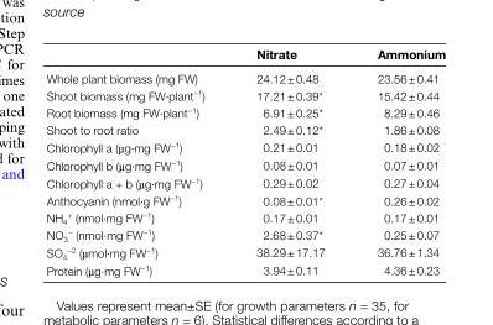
<table><thead><tr><td></td><td>Nitrate</td><td>Ammonium</td></tr></thead><tbody><tr><td>Whole plant biomass (mg FW)</td><td>24.12 ± 0.48</td><td>23.56 ± 0.41</td></tr><tr><td>Shoot biomass (mg FW·plant<sup>−1</sup>)</td><td>17.21 ± 0.39*</td><td>15.42 ± 0.44</td></tr><tr><td>Root biomass (mg FW·plant<sup>−1</sup>)</td><td>6.91 ± 0.25*</td><td>8.29 ± 0.46</td></tr><tr><td>Shoot to root ratio</td><td>2.49 ± 0.12*</td><td>1.86 ± 0.08</td></tr><tr><td>Chlorophyll a (µg·mg FW<sup>−1</sup>)</td><td>0.21 ± 0.01</td><td>0.18 ± 0.02</td></tr><tr><td>Chlorophyll b (µg·mg FW<sup>−1</sup>)</td><td>0.08 ± 0.01</td><td>0.07 ± 0.01</td></tr><tr><td>Chlorophyll a + b (µg·mg FW<sup>−1</sup>)</td><td>0.29 ± 0.02</td><td>0.27 ± 0.04</td></tr><tr><td>Anthocyanin (nmol·g FW<sup>−1</sup>)</td><td>0.08 ± 0.01*</td><td>0.26 ± 0.02</td></tr><tr><td>NH<sub>4</sub> <sup>+</sup> (nmol·mg FW<sup>−1</sup>)</td><td>0.17 ± 0.01</td><td>0.17 ± 0.01</td></tr><tr><td>NO<sub>3</sub> <sup>−</sup> (nmol·mg FW<sup>−1</sup>)</td><td>2.68 ± 0.37*</td><td>0.25 ± 0.07</td></tr><tr><td>SO<sub>4</sub> <sup>−2</sup> (µmol·mg FW<sup>−1</sup>)</td><td>38.29 ± 17.17</td><td>36.76 ± 1.34</td></tr><tr><td>Protein (µg·mg FW<sup>−1</sup>)</td><td>3.94 ± 0.11</td><td>4.36 ± 0.23</td></tr></tbody></table>